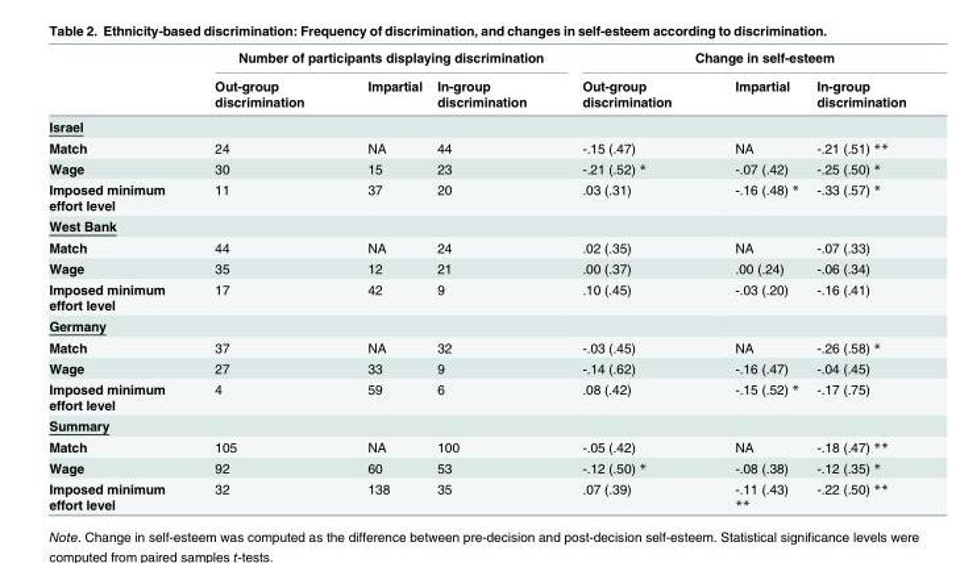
<table><thead><tr><td rowspan="2"></td><td colspan="3">Number of participants displaying discrimination</td><td colspan="3">Change in self-esteem</td></tr><tr><td>Out-group discrimination</td><td>Impartial</td><td>In-group discrimination</td><td>Out-group discrimination</td><td>Impartial</td><td>In-group discrimination</td></tr></thead><tbody><tr><td colspan="7">Israel</td></tr><tr><td>Match</td><td>24</td><td>NA</td><td>44</td><td>-.15 (.47)</td><td>NA</td><td>-.21 (.51) **</td></tr><tr><td>Wage</td><td>30</td><td>15</td><td>23</td><td>-.21 (.52) *</td><td>-.07 (.42)</td><td>-.25 (.50) *</td></tr><tr><td>Imposed minimum effort level</td><td>11</td><td>37</td><td>20</td><td>.03 (.31)</td><td>-.16 (.48) *</td><td>-.33 (.57) *</td></tr><tr><td colspan="7">West Bank</td></tr><tr><td>Match</td><td>44</td><td>NA</td><td>24</td><td>.02 (.35)</td><td>NA</td><td>-.07 (.33)</td></tr><tr><td>Wage</td><td>35</td><td>12</td><td>21</td><td>.00 (.37)</td><td>.00 (.24)</td><td>-.06 (.34)</td></tr><tr><td>Imposed minimum effort level</td><td>17</td><td>42</td><td>9</td><td>.10 (.45)</td><td>-.03 (.20)</td><td>-.16 (.41)</td></tr><tr><td colspan="7">Germany</td></tr><tr><td>Match</td><td>37</td><td>NA</td><td>32</td><td>-.03 (.45)</td><td>NA</td><td>-.26 (.58) *</td></tr><tr><td>Wage</td><td>27</td><td>33</td><td>9</td><td>-.14 (.62)</td><td>-.16 (.47)</td><td>-.04 (.45)</td></tr><tr><td>Imposed minimum effort level</td><td>4</td><td>59</td><td>6</td><td>.08 (.42)</td><td>-.15 (.52) *</td><td>-.17 (.75)</td></tr><tr><td colspan="7">Summary</td></tr><tr><td>Match</td><td>105</td><td>NA</td><td>100</td><td>-.05 (.42)</td><td>NA</td><td>-.18 (.47) **</td></tr><tr><td>Wage</td><td>92</td><td>60</td><td>53</td><td>-.12 (.50) *</td><td>-.08 (.38)</td><td>-.12 (.35) *</td></tr><tr><td>Imposed minimum effort level</td><td>32</td><td>138</td><td>35</td><td>.07 (.39)</td><td>-.11 (.43) **</td><td>-.22 (.50) **</td></tr></tbody></table>